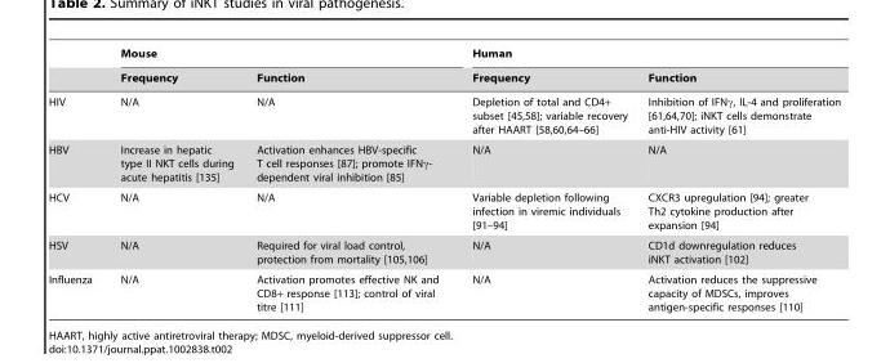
<table><thead><tr><td rowspan="2"></td><td colspan="2">Mouse</td><td colspan="2">Human</td></tr><tr><td>Frequency</td><td>Function</td><td>Frequency</td><td>Function</td></tr></thead><tbody><tr><td>HIV</td><td>N/A</td><td>N/A</td><td>Depletion of total and CD4+ subset [45,58]; variable recovery after HAART [58,60,64–66]</td><td>Inhibition of IFNc, IL-4 and proliferation [61,64,70]; iNKT cells demonstrate anti-HIV activity [61]</td></tr><tr><td>HBV</td><td>Increase in hepatic type II NKT cells during acute hepatitis [135]</td><td>Activation enhances HBV-specific T cell responses [87]; promote IFNγ- dependent viral inhibition [85]</td><td>N/A</td><td>N/A</td></tr><tr><td>HCV</td><td>N/A</td><td>N/A</td><td>Variable depletion following infection in viremic individuals [91–94]</td><td>CXCR3 upregulation [94]; greater Th2 cytokine production after expansion [94]</td></tr><tr><td>HSV</td><td>N/A</td><td>Required for viral load control, protection from mortality [105,106]</td><td>N/A</td><td>CD1d downregulation reduces iNKT activation [102]</td></tr><tr><td>Influenza</td><td>N/A</td><td>Activation promotes effective NK and CD8+ response [113]; control of viral titre [111]</td><td>N/A</td><td>Activation reduces the suppressive capacity of MDSCs, improves antigen-specific responses [110]</td></tr></tbody></table>